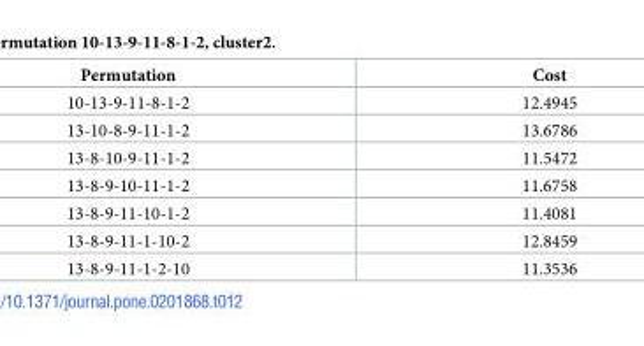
<table><thead><tr><td>Permutation</td><td>Cost</td></tr></thead><tbody><tr><td>10-13-9-11-8-1-2</td><td>12.4945</td></tr><tr><td>13-10-8-9-11-1-2</td><td>13.6786</td></tr><tr><td>13-8-10-9-11-1-2</td><td>11.5472</td></tr><tr><td>13-8-9-10-11-1-2</td><td>11.6758</td></tr><tr><td>13-8-9-11-10-1-2</td><td>11.4081</td></tr><tr><td>13-8-9-11-1-10-2</td><td>12.8459</td></tr><tr><td>13-8-9-11-1-2-10</td><td>11.3536</td></tr></tbody></table>